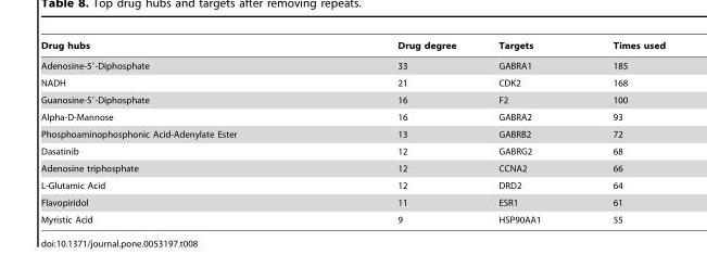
<table><thead><tr><td>Drug hubs</td><td>Drug degree</td><td>Targets</td><td>Times used</td></tr></thead><tbody><tr><td>Adenosine-5′-Diphosphate</td><td>33</td><td>GABRA1</td><td>185</td></tr><tr><td>NADH</td><td>21</td><td>CDK2</td><td>168</td></tr><tr><td>Guanosine-5′-Diphosphate</td><td>16</td><td>F2</td><td>100</td></tr><tr><td>Alpha-D-Mannose</td><td>16</td><td>GABRA2</td><td>93</td></tr><tr><td>Phosphoaminophosphonic Acid-Adenylate Ester</td><td>13</td><td>GABRB2</td><td>72</td></tr><tr><td>Dasatinib</td><td>12</td><td>GABRG2</td><td>68</td></tr><tr><td>Adenosine triphosphate</td><td>12</td><td>CCNA2</td><td>66</td></tr><tr><td>L-Glutamic Acid</td><td>12</td><td>DRD2</td><td>64</td></tr><tr><td>Flavopiridol</td><td>11</td><td>ESR1</td><td>61</td></tr><tr><td>Myristic Acid</td><td>9</td><td>HSP90AA1</td><td>55</td></tr></tbody></table>